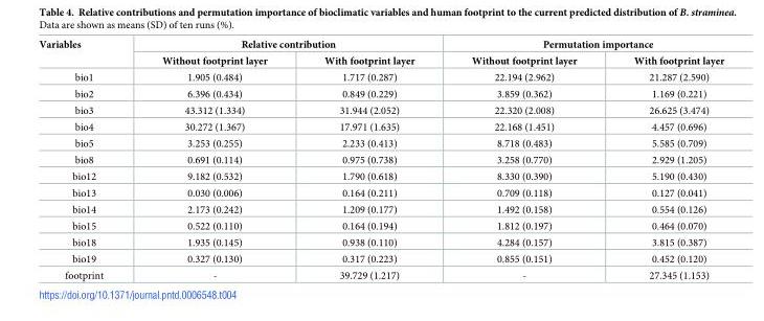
<table><thead><tr><td rowspan="2">Variables</td><td colspan="2">Relative contribution</td><td colspan="2">Permutation importance</td></tr><tr><td>Without footprint layer</td><td>With footprint layer</td><td>Without footprint layer</td><td>With footprint layer</td></tr></thead><tbody><tr><td>bio1</td><td>1.905 (0.484)</td><td>1.717 (0.287)</td><td>22.194 (2.962)</td><td>21.287 (2.590)</td></tr><tr><td>bio2</td><td>6.396 (0.434)</td><td>0.849 (0.229)</td><td>3.859 (0.362)</td><td>1.169 (0.221)</td></tr><tr><td>bio3</td><td>43.312 (1.334)</td><td>31.944 (2.052)</td><td>22.320 (2.008)</td><td>26.625 (3.474)</td></tr><tr><td>bio4</td><td>30.272 (1.367)</td><td>17.971 (1.635)</td><td>22.168 (1.451)</td><td>4.457 (0.696)</td></tr><tr><td>bio5</td><td>3.253 (0.255)</td><td>2.233 (0.413)</td><td>8.718 (0.483)</td><td>5.585 (0.709)</td></tr><tr><td>bio8</td><td>0.691 (0.114)</td><td>0.975 (0.738)</td><td>3.258 (0.770)</td><td>2.929 (1.205)</td></tr><tr><td>bio12</td><td>9.182 (0.532)</td><td>1.790 (0.618)</td><td>8.330 (0.390)</td><td>5.190 (0.430)</td></tr><tr><td>bio13</td><td>0.030 (0.006)</td><td>0.164 (0.211)</td><td>0.709 (0.118)</td><td>0.127 (0.041)</td></tr><tr><td>bio14</td><td>2.173 (0.242)</td><td>1.209 (0.177)</td><td>1.492 (0.158)</td><td>0.554 (0.126)</td></tr><tr><td>bio15</td><td>0.522 (0.110)</td><td>0.164 (0.194)</td><td>1.812 (0.197)</td><td>0.464 (0.070)</td></tr><tr><td>bio18</td><td>1.935 (0.145)</td><td>0.938 (0.110)</td><td>4.284 (0.157)</td><td>3.815 (0.387)</td></tr><tr><td>bio19</td><td>0.327 (0.130)</td><td>0.317 (0.223)</td><td>0.855 (0.151)</td><td>0.452 (0.120)</td></tr><tr><td>footprint</td><td>-</td><td>39.729 (1.217)</td><td>-</td><td>27.345 (1.153)</td></tr></tbody></table>